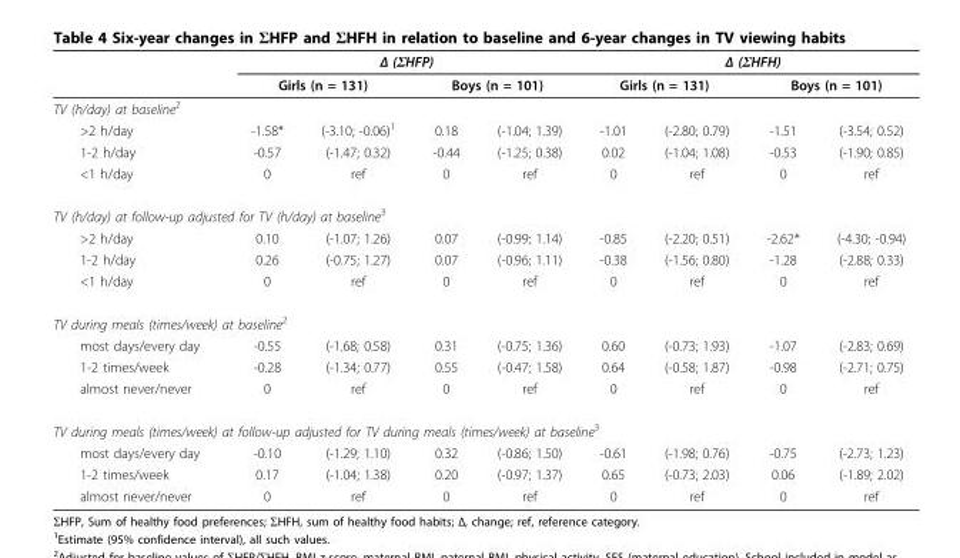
<table><thead><tr><td rowspan="2"></td><td colspan="4">Δ (ΣHFP)</td><td colspan="4">Δ (ΣHFH)</td></tr><tr><td colspan="2">Girls (n = 131)</td><td colspan="2">Boys (n = 101)</td><td colspan="2">Girls (n = 131)</td><td colspan="2">Boys (n = 101)</td></tr><tr><td colspan="9">TV (h/day) at baseline<sup>2</sup></td></tr><tr><td>&gt;2 h/day</td><td>-1.58*</td><td>(-3.10; -0.06)<sup>1</sup></td><td>0.18</td><td>(-1.04; 1.39)</td><td>-1.01</td><td>(-2.80; 0.79)</td><td>-1.51</td><td>(-3.54; 0.52)</td></tr></thead><tbody><tr><td>1-2 h/day</td><td>-0.57</td><td>(-1.47; 0.32)</td><td>-0.44</td><td>(-1.25; 0.38)</td><td>0.02</td><td>(-1.04; 1.08)</td><td>-0.53</td><td>(-1.90; 0.85)</td></tr><tr><td>&lt;1 h/day</td><td>0</td><td>ref</td><td>0</td><td>ref</td><td>0</td><td>ref</td><td>0</td><td>ref</td></tr><tr><td colspan="9">TV (h/day) at follow-up adjusted for TV (h/day) at baseline<sup>3</sup></td></tr><tr><td>&gt;2 h/day</td><td>0.10</td><td>(-1.07; 1.26)</td><td>0.07</td><td>(-0.99; 1.14)</td><td>-0.85</td><td>(-2.20; 0.51)</td><td>-2.62*</td><td>(-4.30; -0.94)</td></tr><tr><td>1-2 h/day</td><td>0.26</td><td>(-0.75; 1.27)</td><td>0.07</td><td>(-0.96; 1.11)</td><td>-0.38</td><td>(-1.56; 0.80)</td><td>-1.28</td><td>(-2.88; 0.33)</td></tr><tr><td>&lt;1 h/day</td><td>0</td><td>ref</td><td>0</td><td>ref</td><td>0</td><td>ref</td><td>0</td><td>ref</td></tr><tr><td colspan="9">TV during meals (times/week) at baseline<sup>2</sup></td></tr><tr><td>most days/every day</td><td>-0.55</td><td>(-1.68; 0.58)</td><td>0.31</td><td>(-0.75; 1.36)</td><td>0.60</td><td>(-0.73; 1.93)</td><td>-1.07</td><td>(-2.83; 0.69)</td></tr><tr><td>1-2 times/week</td><td>-0.28</td><td>(-1.34; 0.77)</td><td>0.55</td><td>(-0.47; 1.58)</td><td>0.64</td><td>(-0.58; 1.87)</td><td>-0.98</td><td>(-2.71; 0.75)</td></tr><tr><td>almost never/never</td><td>0</td><td>ref</td><td>0</td><td>ref</td><td>0</td><td>ref</td><td>0</td><td>ref</td></tr><tr><td colspan="9">TV during meals (times/week) at follow-up adjusted for TV during meals (times/week) at baseline<sup>3</sup></td></tr><tr><td>most days/every day</td><td>-0.10</td><td>(-1.29; 1.10)</td><td>0.32</td><td>(-0.86; 1.50)</td><td>-0.61</td><td>(-1.98; 0.76)</td><td>-0.75</td><td>(-2.73; 1.23)</td></tr><tr><td>1-2 times/week</td><td>0.17</td><td>(-1.04; 1.38)</td><td>0.20</td><td>(-0.97; 1.37)</td><td>0.65</td><td>(-0.73; 2.03)</td><td>0.06</td><td>(-1.89; 2.02)</td></tr><tr><td>almost never/never</td><td>0</td><td>ref</td><td>0</td><td>ref</td><td>0</td><td>ref</td><td>0</td><td>ref</td></tr></tbody></table>